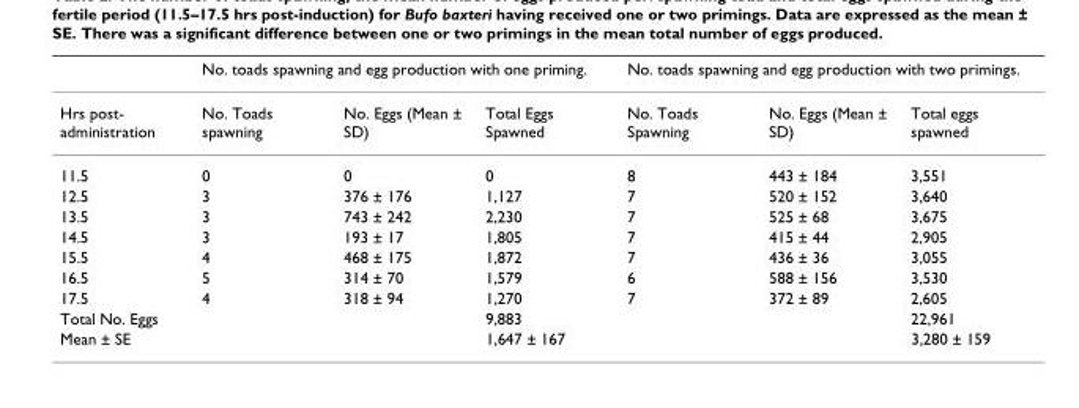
<table><thead><tr><td rowspan="2">Hrs post- administration</td><td colspan="3">No. toads spawning and egg production with one priming.</td><td colspan="3">No. toads spawning and egg production with two primings.</td></tr><tr><td>No. Toads spawning</td><td>No. Eggs (Mean ± SD)</td><td>Total Eggs Spawned</td><td>No. Toads Spawning</td><td>No. Eggs (Mean ± SD)</td><td>Total eggs spawned</td></tr></thead><tbody><tr><td>11.5</td><td>0</td><td>0</td><td>0</td><td>8</td><td>443 ± 184</td><td>3,551</td></tr><tr><td>12.5</td><td>3</td><td>376 ± 176</td><td>1,127</td><td>7</td><td>520 ± 152</td><td>3,640</td></tr><tr><td>13.5</td><td>3</td><td>743 ± 242</td><td>2,230</td><td>7</td><td>525 ± 68</td><td>3,675</td></tr><tr><td>14.5</td><td>3</td><td>193 ± 17</td><td>1,805</td><td>7</td><td>415 ± 44</td><td>2,905</td></tr><tr><td>15.5</td><td>4</td><td>468 ± 175</td><td>1,872</td><td>7</td><td>436 ± 36</td><td>3,055</td></tr><tr><td>16.5</td><td>5</td><td>314 ± 70</td><td>1,579</td><td>6</td><td>588 ± 156</td><td>3,530</td></tr><tr><td>17.5</td><td>4</td><td>318 ± 94</td><td>1,270</td><td>7</td><td>372 ± 89</td><td>2,605</td></tr><tr><td>Total No. Eggs</td><td></td><td></td><td>9,883</td><td></td><td></td><td>22,961</td></tr><tr><td>Mean ± SE</td><td></td><td></td><td>1,647 ± 167</td><td></td><td></td><td>3,280 ± 159</td></tr></tbody></table>